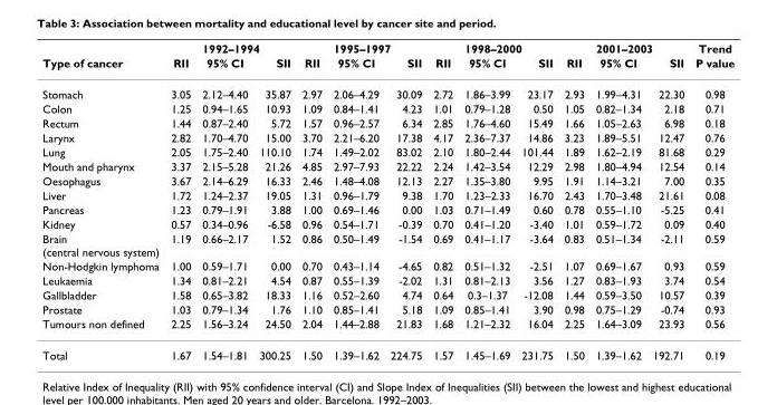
<table><thead><tr><td rowspan="2">Type of cancer</td><td colspan="3">1992–1994</td><td colspan="3">1995–1997</td><td colspan="3">1998–2000</td><td colspan="3">2001–2003</td><td rowspan="2">Trend P value</td></tr><tr><td>RII</td><td>95% CI</td><td>SII</td><td>RII</td><td>95% CI</td><td>SII</td><td>RII</td><td>95% CI</td><td>SII</td><td>RII</td><td>95% CI</td><td>SII</td></tr></thead><tbody><tr><td>Stomach</td><td>3.05</td><td>2.12–4.40</td><td>35.87</td><td>2.97</td><td>2.06–4.29</td><td>30.09</td><td>2.72</td><td>1.86–3.99</td><td>23.17</td><td>2.93</td><td>1.99–4.31</td><td>22.30</td><td>0.98</td></tr><tr><td>Colon</td><td>1.25</td><td>0.94–1.65</td><td>10.93</td><td>1.09</td><td>0.84–1.41</td><td>4.23</td><td>1.01</td><td>0.79–1.28</td><td>0.50</td><td>1.05</td><td>0.82–1.34</td><td>2.18</td><td>0.71</td></tr><tr><td>Rectum</td><td>1.44</td><td>0.87–2.40</td><td>5.72</td><td>1.57</td><td>0.96–2.57</td><td>6.34</td><td>2.85</td><td>1.76–4.60</td><td>15.49</td><td>1.66</td><td>1.05–2.63</td><td>6.98</td><td>0.18</td></tr><tr><td>Larynx</td><td>2.82</td><td>1.70–4.70</td><td>15.00</td><td>3.70</td><td>2.21–6.20</td><td>17.38</td><td>4.17</td><td>2.36–7.37</td><td>14.86</td><td>3.23</td><td>1.89–5.51</td><td>12.47</td><td>0.76</td></tr><tr><td>Lung</td><td>2.05</td><td>1.75–2.40</td><td>110.10</td><td>1.74</td><td>1.49–2.02</td><td>83.02</td><td>2.10</td><td>1.80–2.44</td><td>101.44</td><td>1.89</td><td>1.62–2.19</td><td>81.68</td><td>0.29</td></tr><tr><td>Mouth and pharynx</td><td>3.37</td><td>2.15–5.28</td><td>21.26</td><td>4.85</td><td>2.97–7.93</td><td>22.22</td><td>2.24</td><td>1.42–3.54</td><td>12.29</td><td>2.98</td><td>1.80–4.94</td><td>12.54</td><td>0.14</td></tr><tr><td>Oesophagus</td><td>3.67</td><td>2.14–6.29</td><td>16.33</td><td>2.46</td><td>1.48–4.08</td><td>12.13</td><td>2.27</td><td>1.35–3.80</td><td>9.95</td><td>1.91</td><td>1.14–3.21</td><td>7.00</td><td>0.35</td></tr><tr><td>Liver</td><td>1.72</td><td>1.24–2.37</td><td>19.05</td><td>1.31</td><td>0.96–1.79</td><td>9.38</td><td>1.70</td><td>1.23–2.33</td><td>16.70</td><td>2.43</td><td>1.70–3.48</td><td>21.61</td><td>0.08</td></tr><tr><td>Pancreas</td><td>1.23</td><td>0.79–1.91</td><td>3.88</td><td>1.00</td><td>0.69–1.46</td><td>0.00</td><td>1.03</td><td>0.71–1.49</td><td>0.60</td><td>0.78</td><td>0.55–1.10</td><td>-5.25</td><td>0.41</td></tr><tr><td>Kidney</td><td>0.57</td><td>0.34–0.96</td><td>-6.58</td><td>0.96</td><td>0.54–1.71</td><td>-0.39</td><td>0.70</td><td>0.41–1.20</td><td>-3.40</td><td>1.01</td><td>0.59–1.72</td><td>0.09</td><td>0.40</td></tr><tr><td>Brain (central nervous system)</td><td>1.19</td><td>0.66–2.17</td><td>1.52</td><td>0.86</td><td>0.50–1.49</td><td>-1.54</td><td>0.69</td><td>0.41–1.17</td><td>-3.64</td><td>0.83</td><td>0.51–1.34</td><td>-2.11</td><td>0.59</td></tr><tr><td>Non-Hodgkin lymphoma</td><td>1.00</td><td>0.59–1.71</td><td>0.00</td><td>0.70</td><td>0.43–1.14</td><td>-4.65</td><td>0.82</td><td>0.51–1.32</td><td>-2.51</td><td>1.07</td><td>0.69–1.67</td><td>0.93</td><td>0.59</td></tr><tr><td>Leukaemia</td><td>1.34</td><td>0.81–2.21</td><td>4.54</td><td>0.87</td><td>0.55–1.39</td><td>-2.02</td><td>1.31</td><td>0.81–2.13</td><td>3.56</td><td>1.27</td><td>0.83–1.93</td><td>3.74</td><td>0.54</td></tr><tr><td>Gallbladder</td><td>1.58</td><td>0.65–3.82</td><td>18.33</td><td>1.16</td><td>0.52–2.60</td><td>4.74</td><td>0.64</td><td>0.3–1.37</td><td>-12.08</td><td>1.44</td><td>0.59–3.50</td><td>10.57</td><td>0.39</td></tr><tr><td>Prostate</td><td>1.03</td><td>0.79–1.34</td><td>1.76</td><td>1.10</td><td>0.85–1.41</td><td>5.18</td><td>1.09</td><td>0.85–1.41</td><td>3.90</td><td>0.98</td><td>0.75–1.29</td><td>-0.74</td><td>0.93</td></tr><tr><td>Tumours non defined</td><td>2.25</td><td>1.56–3.24</td><td>24.50</td><td>2.04</td><td>1.44–2.88</td><td>21.83</td><td>1.68</td><td>1.21–2.32</td><td>16.04</td><td>2.25</td><td>1.64–3.09</td><td>23.93</td><td>0.56</td></tr><tr><td>Total</td><td>1.67</td><td>1.54–1.81</td><td>300.25</td><td>1.50</td><td>1.39–1.62</td><td>224.75</td><td>1.57</td><td>1.45–1.69</td><td>231.75</td><td>1.50</td><td>1.39–1.62</td><td>192.71</td><td>0.19</td></tr></tbody></table>